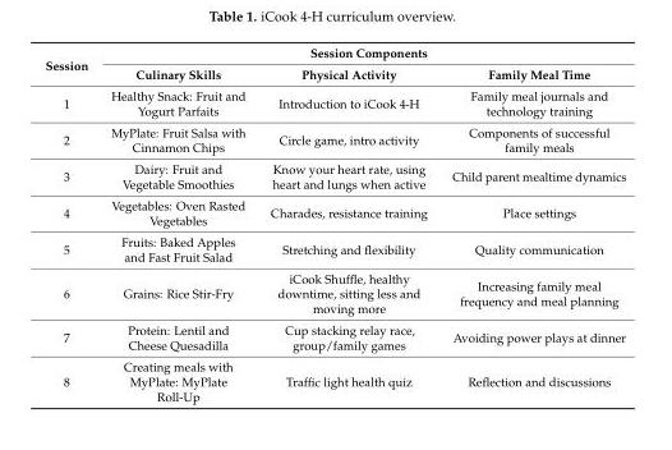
<table><thead><tr><td rowspan="2">Session</td><td colspan="3">Session Components</td></tr><tr><td>Culinary Skills</td><td>Physical Activity</td><td>Family Meal Time</td></tr></thead><tbody><tr><td>1</td><td>Healthy Snack: Fruit and Yogurt Parfaits</td><td>Introduction to iCook 4-H</td><td>Family meal journals and technology training</td></tr><tr><td>2</td><td>MyPlate: Fruit Salsa with Cinnamon Chips</td><td>Circle game, intro activity</td><td>Components of successful family meals</td></tr><tr><td>3</td><td>Dairy: Fruit and Vegetable Smoothies</td><td>Know your heart rate, using heart and lungs when active</td><td>Child parent mealtime dynamics</td></tr><tr><td>4</td><td>Vegetables: Oven Rasted Vegetables</td><td>Charades, resistance training</td><td>Place settings</td></tr><tr><td>5</td><td>Fruits: Baked Apples and Fast Fruit Salad</td><td>Stretching and flexibility</td><td>Quality communication</td></tr><tr><td>6</td><td>Grains: Rice Stir-Fry</td><td>iCook Shuffle, healthy downtime, sitting less and moving more</td><td>Increasing family meal frequency and meal planning</td></tr><tr><td>7</td><td>Protein: Lentil and Cheese Quesadilla</td><td>Cup stacking relay race, group/family games</td><td>Avoiding power plays at dinner</td></tr><tr><td>8</td><td>Creating meals with MyPlate: MyPlate Roll-Up</td><td>Traffic light health quiz</td><td>Reflection and discussions</td></tr></tbody></table>